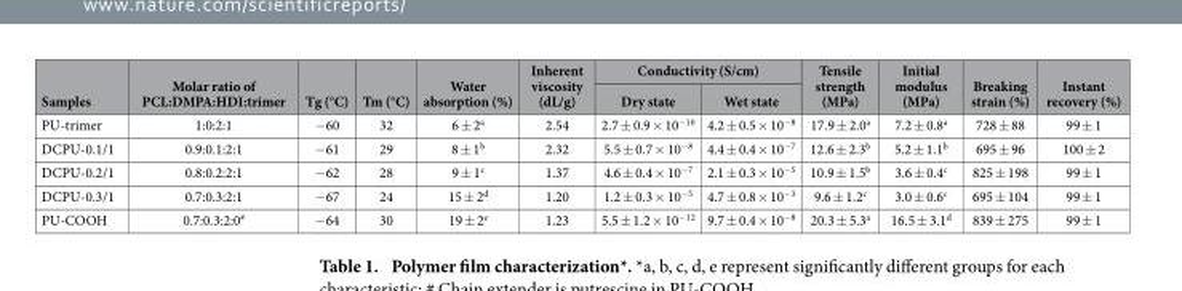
<table><thead><tr><td rowspan="2">Samples</td><td rowspan="2">Molar ratio of PCL:DMPA:HDI:trimer</td><td rowspan="2">Tg (°C)</td><td rowspan="2">Tm (°C)</td><td rowspan="2">Water absorption (%)</td><td rowspan="2">Inherent viscosity (dL/g)</td><td colspan="2">Conductivity (S/cm)</td><td rowspan="2">Tensile strength (MPa)</td><td rowspan="2">Initial modulus (MPa)</td><td rowspan="2">Breaking strain (%)</td><td rowspan="2">Instant recovery (%)</td></tr><tr><td>Dry state</td><td>Wet state</td></tr></thead><tbody><tr><td>PU-trimer</td><td>1:0:2:1</td><td>− 60</td><td>32</td><td>6 ± 2<sup>a</sup></td><td>2.54</td><td>2.7 ± 0.9 × 10<sup>−10</sup></td><td>4.2 ± 0.5 × 10<sup>−8</sup></td><td>17.9 ± 2.0<sup>a</sup></td><td>7.2 ± 0.8<sup>a</sup></td><td>728 ± 88</td><td>99 ± 1</td></tr><tr><td>DCPU-0.1/1</td><td>0.9:0.1:2:1</td><td>− 61</td><td>29</td><td>8 ± 1<sup>b</sup></td><td>2.32</td><td>5.5 ± 0.7 × 10<sup>−8</sup></td><td>4.4 ± 0.4 × 10<sup>−7</sup></td><td>12.6 ± 2.3<sup>b</sup></td><td>5.2 ± 1.1<sup>b</sup></td><td>695 ± 96</td><td>100 ± 2</td></tr><tr><td>DCPU-0.2/1</td><td>0.8:0.2:2:1</td><td>− 62</td><td>28</td><td>9 ± 1<sup>c</sup></td><td>1.37</td><td>4.6 ± 0.4 × 10<sup>−7</sup></td><td>2.1 ± 0.3 × 10<sup>−5</sup></td><td>10.9 ± 1.5<sup>b</sup></td><td>3.6 ± 0.4<sup>c</sup></td><td>825 ± 198</td><td>99 ± 1</td></tr><tr><td>DCPU-0.3/1</td><td>0.7:0.3:2:1</td><td>− 67</td><td>24</td><td>15 ± 2<sup>d</sup></td><td>1.20</td><td>1.2 ± 0.3 × 10<sup>−5</sup></td><td>4.7 ± 0.8 × 10<sup>−3</sup></td><td>9.6 ± 1.2<sup>c</sup></td><td>3.0 ± 0.6<sup>c</sup></td><td>695 ± 104</td><td>99 ± 1</td></tr><tr><td>PU-COOH</td><td>0.7:0.3:2:0<sup>#</sup></td><td>− 64</td><td>30</td><td>19 ± 2<sup>e</sup></td><td>1.23</td><td>5.5 ± 1.2 × 10<sup>−12</sup></td><td>9.7 ± 0.4 × 10<sup>−8</sup></td><td>20.3 ± 5.3<sup>a</sup></td><td>16.5 ± 3.1<sup>d</sup></td><td>839 ± 275</td><td>99 ± 1</td></tr></tbody></table>